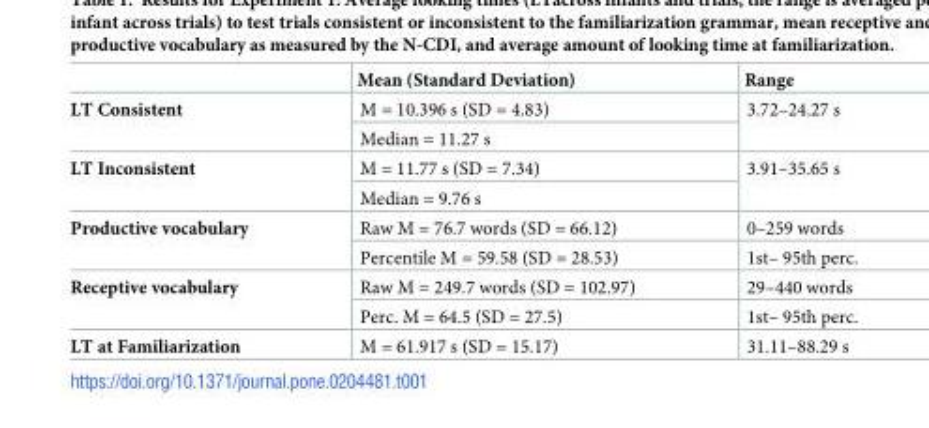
<table><thead><tr><td></td><td>Mean (Standard Deviation)</td><td>Range</td></tr></thead><tbody><tr><td rowspan="2">LT Consistent</td><td>M = 10.396 s (SD = 4.83)</td><td rowspan="2">3.72–24.27 s</td></tr><tr><td>Median = 11.27 s</td></tr><tr><td rowspan="2">LT Inconsistent</td><td>M = 11.77 s (SD = 7.34)</td><td rowspan="2">3.91–35.65 s</td></tr><tr><td>Median = 9.76 s</td></tr><tr><td rowspan="2">Productive vocabulary</td><td>Raw M = 76.7 words (SD = 66.12)</td><td>0–259 words</td></tr><tr><td>Percentile M = 59.58 (SD = 28.53)</td><td>1st– 95th perc.</td></tr><tr><td rowspan="2">Receptive vocabulary</td><td>Raw M = 249.7 words (SD = 102.97)</td><td>29–440 words</td></tr><tr><td>Perc. M = 64.5 (SD = 27.5)</td><td>1st– 95th perc.</td></tr><tr><td>LT at Familiarization</td><td>M = 61.917 s (SD = 15.17)</td><td>31.11–88.29 s</td></tr></tbody></table>